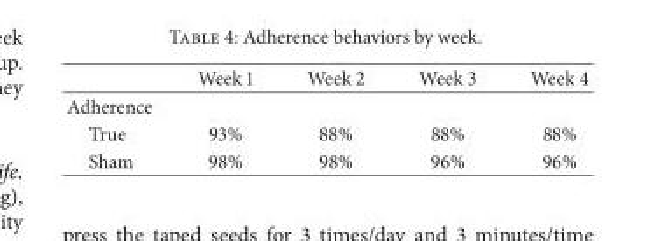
<table><thead><tr><td></td><td>Week 1</td><td>Week 2</td><td>Week 3</td><td>Week 4</td></tr></thead><tbody><tr><td colspan="5">Adherence</td></tr><tr><td>True</td><td>93%</td><td>88%</td><td>88%</td><td>88%</td></tr><tr><td>Sham</td><td>98%</td><td>98%</td><td>96%</td><td>96%</td></tr></tbody></table>